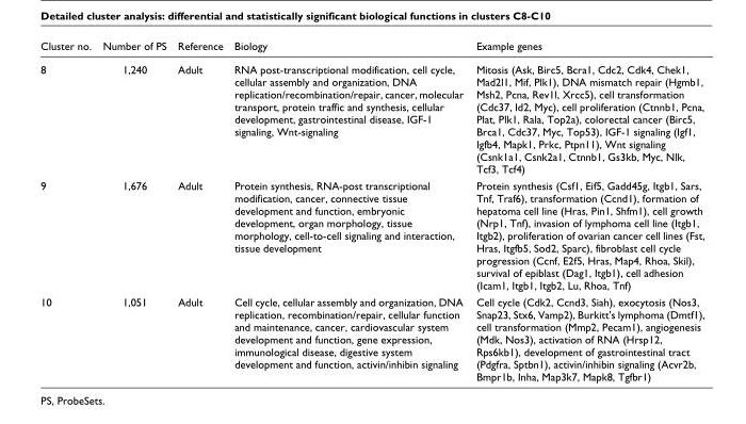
<table><thead><tr><td>Cluster no.</td><td>Number of PS</td><td>Reference</td><td>Biology</td><td>Example genes</td></tr></thead><tbody><tr><td>8</td><td>1,240</td><td>Adult</td><td>RNA post-transcriptional modification, cell cycle, cellular assembly and organization, DNA replication/recombination/repair, cancer, molecular transport, protein traffic and synthesis, cellular development, gastrointestinal disease, IGF-1 signaling, Wnt-signaling</td><td>Mitosis (Ask, Birc5, Bcra1, Cdc2, Cdk4, Chek1, Mad2l1, Mif, Plk1), DNA mismatch repair (Hgmb1, Msh2, Pcna, Rev1l, Xrcc5), cell transformation (Cdc37, Id2, Myc), cell proliferation (Ctnnb1, Pcna, Plat, Plk1, Rala, Top2a), colorectal cancer (Birc5, Brca1, Cdc37, Myc, Top53), IGF-1 signaling (Igf1, Igfb4, Mapk1, Prkc, Ptpn11), Wnt signaling (Csnk1a1, Csnk2a1, Ctnnb1, Gs3kb, Myc, Nlk, Tcf3, Tcf4)</td></tr><tr><td>9</td><td>1,676</td><td>Adult</td><td>Protein synthesis, RNA-post transcriptional modification, cancer, connective tissue development and function, embryonic development, organ morphology, tissue morphology, cell-to-cell signaling and interaction, tissue development</td><td>Protein synthesis (Csf1, Eif5, Gadd45g, Itgb1, Sars, Tnf, Traf6), transformation (Ccnd1), formation of hepatoma cell line (Hras, Pin1, Shfm1), cell growth (Nrp1, Tnf), invasion of lymphoma cell line (Itgb1, Itgb2), proliferation of ovarian cancer cell lines (Fst, Hras, Itgfb5, Sod2, Sparc), fibroblast cell cycle progression (Ccnf, E2f5, Hras, Map4, Rhoa, Skil), survival of epiblast (Dag1, Itgb1), cell adhesion (Icam1, Itgb1, Itgb2, Lu, Rhoa, Tnf)</td></tr><tr><td>10</td><td>1,051</td><td>Adult</td><td>Cell cycle, cellular assembly and organization, DNA replication, recombination/repair, cellular function and maintenance, cancer, cardiovascular system development and function, gene expression, immunological disease, digestive system development and function, activin/inhibin signaling</td><td>Cell cycle (Cdk2, Ccnd3, Siah), exocytosis (Nos3, Snap23, Stx6, Vamp2), Burkitt&#x27;s lymphoma (Dmtf1), cell transformation (Mmp2, Pecam1), angiogenesis (Mdk, Nos3), activation of RNA (Hrsp12, Rps6kb1), development of gastrointestinal tract (Pdgfra, Sptbn1), activin/inhibin signaling (Acvr2b, Bmpr1b, Inha, Map3k7, Mapk8, Tgfbr1)</td></tr></tbody></table>